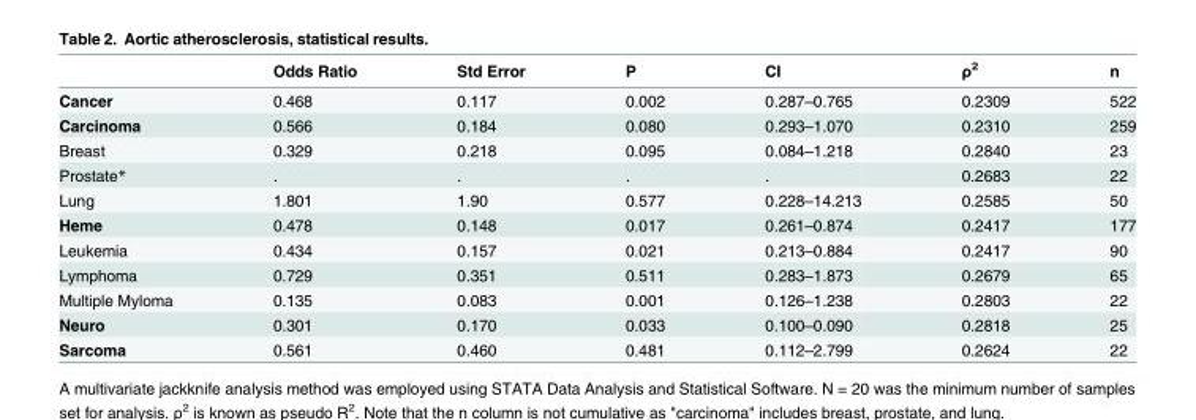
<table><thead><tr><td></td><td>Odds Ratio</td><td>Std Error</td><td>P</td><td>CI</td><td>ρ<sup>2</sup></td><td>n</td></tr></thead><tbody><tr><td>Cancer</td><td>0.468</td><td>0.117</td><td>0.002</td><td>0.287–0.765</td><td>0.2309</td><td>522</td></tr><tr><td>Carcinoma</td><td>0.566</td><td>0.184</td><td>0.080</td><td>0.293–1.070</td><td>0.2310</td><td>259</td></tr><tr><td>Breast</td><td>0.329</td><td>0.218</td><td>0.095</td><td>0.084–1.218</td><td>0.2840</td><td>23</td></tr><tr><td>Prostate*</td><td>.</td><td>.</td><td>.</td><td>.</td><td>0.2683</td><td>22</td></tr><tr><td>Lung</td><td>1.801</td><td>1.90</td><td>0.577</td><td>0.228–14.213</td><td>0.2585</td><td>50</td></tr><tr><td>Heme</td><td>0.478</td><td>0.148</td><td>0.017</td><td>0.261–0.874</td><td>0.2417</td><td>177</td></tr><tr><td>Leukemia</td><td>0.434</td><td>0.157</td><td>0.021</td><td>0.213–0.884</td><td>0.2417</td><td>90</td></tr><tr><td>Lymphoma</td><td>0.729</td><td>0.351</td><td>0.511</td><td>0.283–1.873</td><td>0.2679</td><td>65</td></tr><tr><td>Multiple Myloma</td><td>0.135</td><td>0.083</td><td>0.001</td><td>0.126–1.238</td><td>0.2803</td><td>22</td></tr><tr><td>Neuro</td><td>0.301</td><td>0.170</td><td>0.033</td><td>0.100–0.090</td><td>0.2818</td><td>25</td></tr><tr><td>Sarcoma</td><td>0.561</td><td>0.460</td><td>0.481</td><td>0.112–2.799</td><td>0.2624</td><td>22</td></tr></tbody></table>